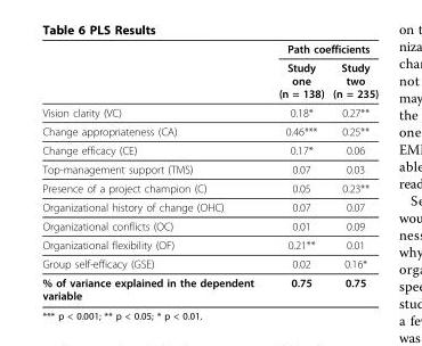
<table><thead><tr><td rowspan="2"></td><td colspan="2">Path coefficients</td></tr><tr><td>Study one (n = 138)</td><td>Study two (n = 235)</td></tr></thead><tbody><tr><td>Vision clarity (VC)</td><td>0.18*</td><td>0.27**</td></tr><tr><td>Change appropriateness (CA)</td><td>0.46***</td><td>0.25**</td></tr><tr><td>Change efficacy (CE)</td><td>0.17*</td><td>0.06</td></tr><tr><td>Top-management support (TMS)</td><td>0.07</td><td>0.03</td></tr><tr><td>Presence of a project champion (C)</td><td>0.05</td><td>0.23**</td></tr><tr><td>Organizational history of change (OHC)</td><td>0.07</td><td>0.07</td></tr><tr><td>Organizational conflicts (OC)</td><td>0.01</td><td>0.09</td></tr><tr><td>Organizational flexibility (OF)</td><td>0.21**</td><td>0.01</td></tr><tr><td>Group self-efficacy (GSE)</td><td>0.02</td><td>0.16*</td></tr><tr><td>% of variance explained in the dependent variable</td><td>0.75</td><td>0.75</td></tr></tbody></table>